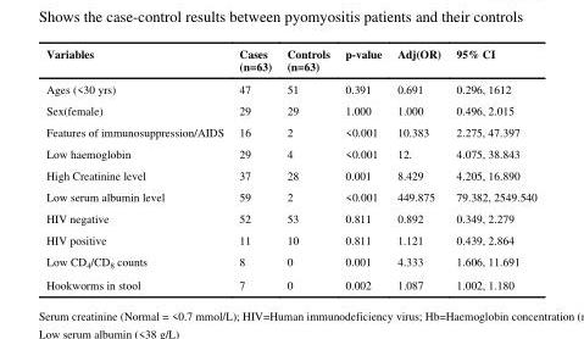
<table><thead><tr><td>Variables</td><td>Cases (n=63)</td><td>Controls (n=63)</td><td>p-value</td><td>Adj(OR)</td><td>95% CI</td></tr></thead><tbody><tr><td>Ages (&lt;30 yrs)</td><td>47</td><td>51</td><td>0.391</td><td>0.691</td><td>0.296, 1612</td></tr><tr><td>Sex(female)</td><td>29</td><td>29</td><td>1.000</td><td>1.000</td><td>0.496, 2.015</td></tr><tr><td>Features of immunosuppression/AIDS</td><td>16</td><td>2</td><td>&lt;0.001</td><td>10.383</td><td>2.275, 47.397</td></tr><tr><td>Low haemoglobin</td><td>29</td><td>4</td><td>&lt;0.001</td><td>12.</td><td>4.075, 38.843</td></tr><tr><td>High Creatinine level</td><td>37</td><td>28</td><td>0.001</td><td>8.429</td><td>4.205, 16.890</td></tr><tr><td>Low serum albumin level</td><td>59</td><td>2</td><td>&lt;0.001</td><td>449.875</td><td>79.382, 2549.540</td></tr><tr><td>HIV negative</td><td>52</td><td>53</td><td>0.811</td><td>0.892</td><td>0.349, 2.279</td></tr><tr><td>HIV positive</td><td>11</td><td>10</td><td>0.811</td><td>1.121</td><td>0.439, 2.864</td></tr><tr><td>Low CD<sub>4</sub>/CD<sub>8</sub> counts</td><td>8</td><td>0</td><td>0.001</td><td>4.333</td><td>1.606, 11.691</td></tr><tr><td>Hookworms in stool</td><td>7</td><td>0</td><td>0.002</td><td>1.087</td><td>1.002, 1.180</td></tr></tbody></table>